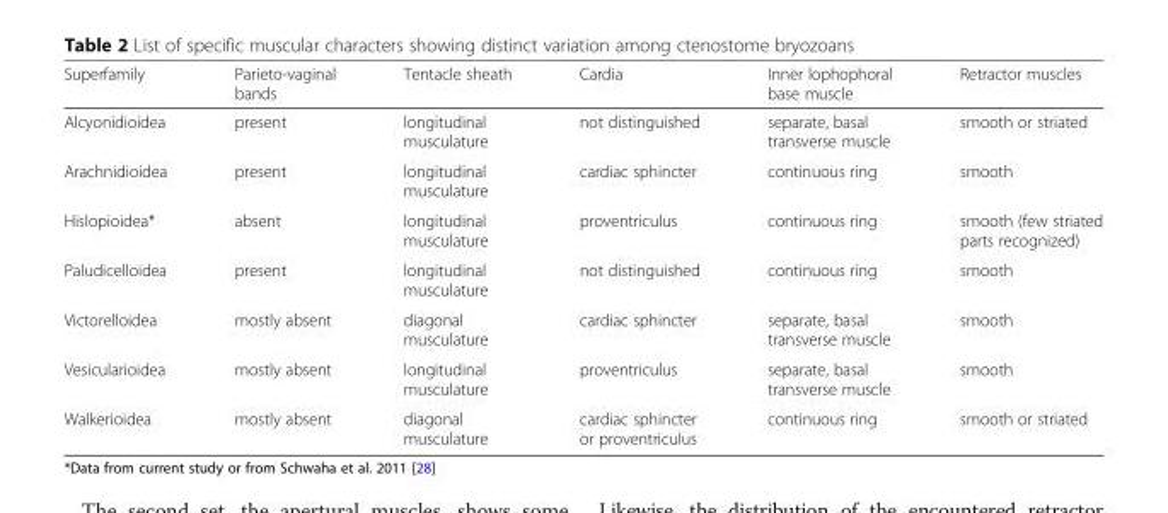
<table><thead><tr><td>Superfamily</td><td>Parieto-vaginal bands</td><td>Tentacle sheath</td><td>Cardia</td><td>Inner lophophoral base muscle</td><td>Retractor muscles</td></tr></thead><tbody><tr><td>Alcyonidioidea</td><td>present</td><td>longitudinal musculature</td><td>not distinguished</td><td>separate, basal transverse muscle</td><td>smooth or striated</td></tr><tr><td>Arachnidioidea</td><td>present</td><td>longitudinal musculature</td><td>cardiac sphincter</td><td>continuous ring</td><td>smooth</td></tr><tr><td>Hislopioidea*</td><td>absent</td><td>longitudinal musculature</td><td>proventriculus</td><td>continuous ring</td><td>smooth (few striated parts recognized)</td></tr><tr><td>Paludicelloidea</td><td>present</td><td>longitudinal musculature</td><td>not distinguished</td><td>continuous ring</td><td>smooth</td></tr><tr><td>Victorelloidea</td><td>mostly absent</td><td>diagonal musculature</td><td>cardiac sphincter</td><td>separate, basal transverse muscle</td><td>smooth</td></tr><tr><td>Vesicularioidea</td><td>mostly absent</td><td>longitudinal musculature</td><td>proventriculus</td><td>separate, basal transverse muscle</td><td>smooth</td></tr><tr><td>Walkerioidea</td><td>mostly absent</td><td>diagonal musculature</td><td>cardiac sphincter or proventriculus</td><td>continuous ring</td><td>smooth or striated</td></tr></tbody></table>